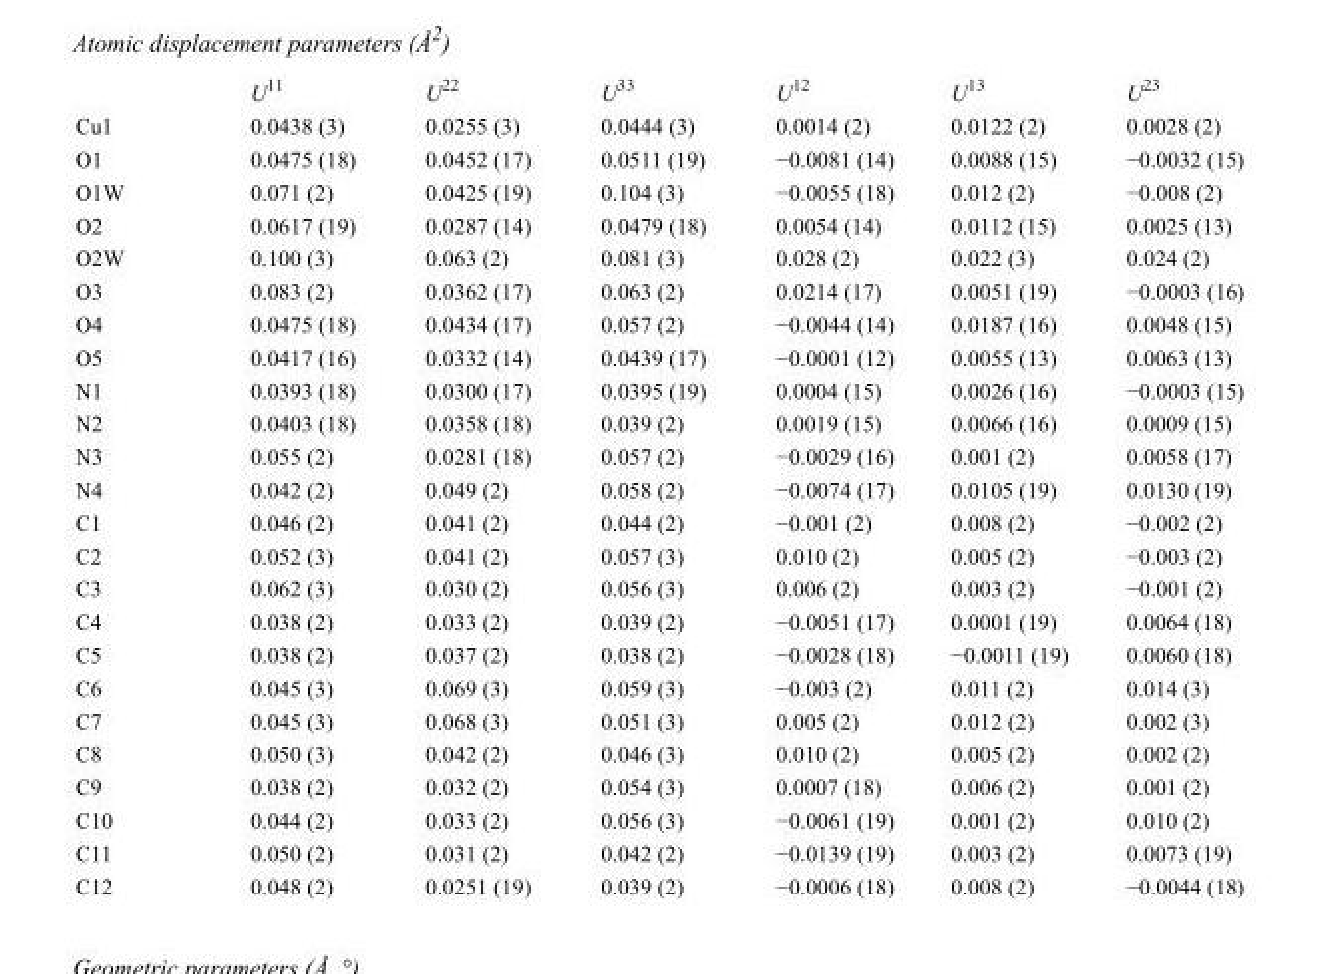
<table><thead><tr><td></td><td>U<sup>11</sup></td><td>U<sup>22</sup></td><td>U<sup>33</sup></td><td>U<sup>12</sup></td><td>U<sup>13</sup></td><td>U<sup>23</sup></td></tr></thead><tbody><tr><td>Cu1</td><td>0.0438 (3)</td><td>0.0255 (3)</td><td>0.0444 (3)</td><td>0.0014 (2)</td><td>0.0122 (2)</td><td>0.0028 (2)</td></tr><tr><td>O1</td><td>0.0475 (18)</td><td>0.0452 (17)</td><td>0.0511 (19)</td><td>−0.0081 (14)</td><td>0.0088 (15)</td><td>−0.0032 (15)</td></tr><tr><td>O1W</td><td>0.071 (2)</td><td>0.0425 (19)</td><td>0.104 (3)</td><td>−0.0055 (18)</td><td>0.012 (2)</td><td>−0.008 (2)</td></tr><tr><td>O2</td><td>0.0617 (19)</td><td>0.0287 (14)</td><td>0.0479 (18)</td><td>0.0054 (14)</td><td>0.0112 (15)</td><td>0.0025 (13)</td></tr><tr><td>O2W</td><td>0.100 (3)</td><td>0.063 (2)</td><td>0.081 (3)</td><td>0.028 (2)</td><td>0.022 (3)</td><td>0.024 (2)</td></tr><tr><td>O3</td><td>0.083 (2)</td><td>0.0362 (17)</td><td>0.063 (2)</td><td>0.0214 (17)</td><td>0.0051 (19)</td><td>−0.0003 (16)</td></tr><tr><td>O4</td><td>0.0475 (18)</td><td>0.0434 (17)</td><td>0.057 (2)</td><td>−0.0044 (14)</td><td>0.0187 (16)</td><td>0.0048 (15)</td></tr><tr><td>O5</td><td>0.0417 (16)</td><td>0.0332 (14)</td><td>0.0439 (17)</td><td>−0.0001 (12)</td><td>0.0055 (13)</td><td>0.0063 (13)</td></tr><tr><td>N1</td><td>0.0393 (18)</td><td>0.0300 (17)</td><td>0.0395 (19)</td><td>0.0004 (15)</td><td>0.0026 (16)</td><td>−0.0003 (15)</td></tr><tr><td>N2</td><td>0.0403 (18)</td><td>0.0358 (18)</td><td>0.039 (2)</td><td>0.0019 (15)</td><td>0.0066 (16)</td><td>0.0009 (15)</td></tr><tr><td>N3</td><td>0.055 (2)</td><td>0.0281 (18)</td><td>0.057 (2)</td><td>−0.0029 (16)</td><td>0.001 (2)</td><td>0.0058 (17)</td></tr><tr><td>N4</td><td>0.042 (2)</td><td>0.049 (2)</td><td>0.058 (2)</td><td>−0.0074 (17)</td><td>0.0105 (19)</td><td>0.0130 (19)</td></tr><tr><td>C1</td><td>0.046 (2)</td><td>0.041 (2)</td><td>0.044 (2)</td><td>−0.001 (2)</td><td>0.008 (2)</td><td>−0.002 (2)</td></tr><tr><td>C2</td><td>0.052 (3)</td><td>0.041 (2)</td><td>0.057 (3)</td><td>0.010 (2)</td><td>0.005 (2)</td><td>−0.003 (2)</td></tr><tr><td>C3</td><td>0.062 (3)</td><td>0.030 (2)</td><td>0.056 (3)</td><td>0.006 (2)</td><td>0.003 (2)</td><td>−0.001 (2)</td></tr><tr><td>C4</td><td>0.038 (2)</td><td>0.033 (2)</td><td>0.039 (2)</td><td>−0.0051 (17)</td><td>0.0001 (19)</td><td>0.0064 (18)</td></tr><tr><td>C5</td><td>0.038 (2)</td><td>0.037 (2)</td><td>0.038 (2)</td><td>−0.0028 (18)</td><td>−0.0011 (19)</td><td>0.0060 (18)</td></tr><tr><td>C6</td><td>0.045 (3)</td><td>0.069 (3)</td><td>0.059 (3)</td><td>−0.003 (2)</td><td>0.011 (2)</td><td>0.014 (3)</td></tr><tr><td>C7</td><td>0.045 (3)</td><td>0.068 (3)</td><td>0.051 (3)</td><td>0.005 (2)</td><td>0.012 (2)</td><td>0.002 (3)</td></tr><tr><td>C8</td><td>0.050 (3)</td><td>0.042 (2)</td><td>0.046 (3)</td><td>0.010 (2)</td><td>0.005 (2)</td><td>0.002 (2)</td></tr><tr><td>C9</td><td>0.038 (2)</td><td>0.032 (2)</td><td>0.054 (3)</td><td>0.0007 (18)</td><td>0.006 (2)</td><td>0.001 (2)</td></tr><tr><td>C10</td><td>0.044 (2)</td><td>0.033 (2)</td><td>0.056 (3)</td><td>−0.0061 (19)</td><td>0.001 (2)</td><td>0.010 (2)</td></tr><tr><td>C11</td><td>0.050 (2)</td><td>0.031 (2)</td><td>0.042 (2)</td><td>−0.0139 (19)</td><td>0.003 (2)</td><td>0.0073 (19)</td></tr><tr><td>C12</td><td>0.048 (2)</td><td>0.0251 (19)</td><td>0.039 (2)</td><td>−0.0006 (18)</td><td>0.008 (2)</td><td>−0.0044 (18)</td></tr></tbody></table>